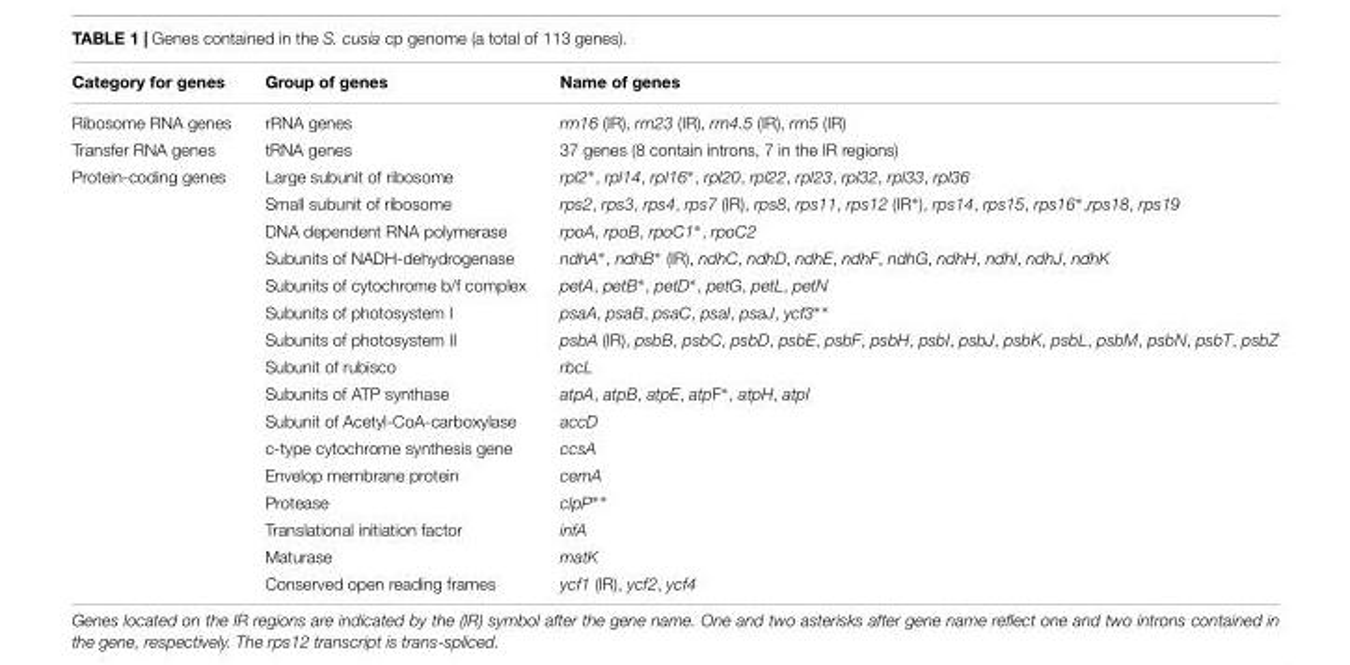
<table><thead><tr><td>Category for genes</td><td>Group of genes</td><td>Name of genes</td></tr></thead><tbody><tr><td>Ribosome RNA genes</td><td>rRNA genes</td><td>rrn16 (IR), rrn23 (IR), rrn4.5 (IR), rrn5 (IR)</td></tr><tr><td>Transfer RNA genes</td><td>tRNA genes</td><td>37 genes (8 contain introns, 7 in the IR regions)</td></tr><tr><td rowspan="16">Protein-coding genes</td><td>Large subunit of ribosome</td><td>rpl2∗, rpl14, rpl16∗, rpl20, rpl22, rpl23, rpl32, rpl33, rpl36</td></tr><tr><td>Small subunit of ribosome</td><td>rps2, rps3, rps4, rps7 (IR), rps8, rps11, rps12 (IR∗), rps14, rps15, rps16∗,rps18, rps19</td></tr><tr><td>DNA dependent RNA polymerase</td><td>rpoA, rpoB, rpoC1∗, rpoC2</td></tr><tr><td>Subunits of NADH-dehydrogenase</td><td>ndhA∗, ndhB∗ (IR), ndhC, ndhD, ndhE, ndhF, ndhG, ndhH, ndhI, ndhJ, ndhK</td></tr><tr><td>Subunits of cytochrome b/f complex</td><td>petA, petB∗, petD∗, petG, petL, petN</td></tr><tr><td>Subunits of photosystem I</td><td>psaA, psaB, psaC, psaI, psaJ, ycf3∗∗</td></tr><tr><td>Subunits of photosystem II</td><td>psbA (IR), psbB, psbC, psbD, psbE, psbF, psbH, psbI, psbJ, psbK, psbL, psbM, psbN, psbT, psbZ</td></tr><tr><td>Subunit of rubisco</td><td>rbcL</td></tr><tr><td>Subunits of ATP synthase</td><td>atpA, atpB, atpE, atpF∗, atpH, atpI</td></tr><tr><td>Subunit of Acetyl-CoA-carboxylase</td><td>accD</td></tr><tr><td>c-type cytochrome synthesis gene</td><td>ccsA</td></tr><tr><td>Envelop membrane protein</td><td>cemA</td></tr><tr><td>Protease</td><td>clpP∗∗</td></tr><tr><td>Translational initiation factor</td><td>infA</td></tr><tr><td>Maturase</td><td>matK</td></tr><tr><td>Conserved open reading frames</td><td>ycf1 (IR), ycf2, ycf4</td></tr></tbody></table>